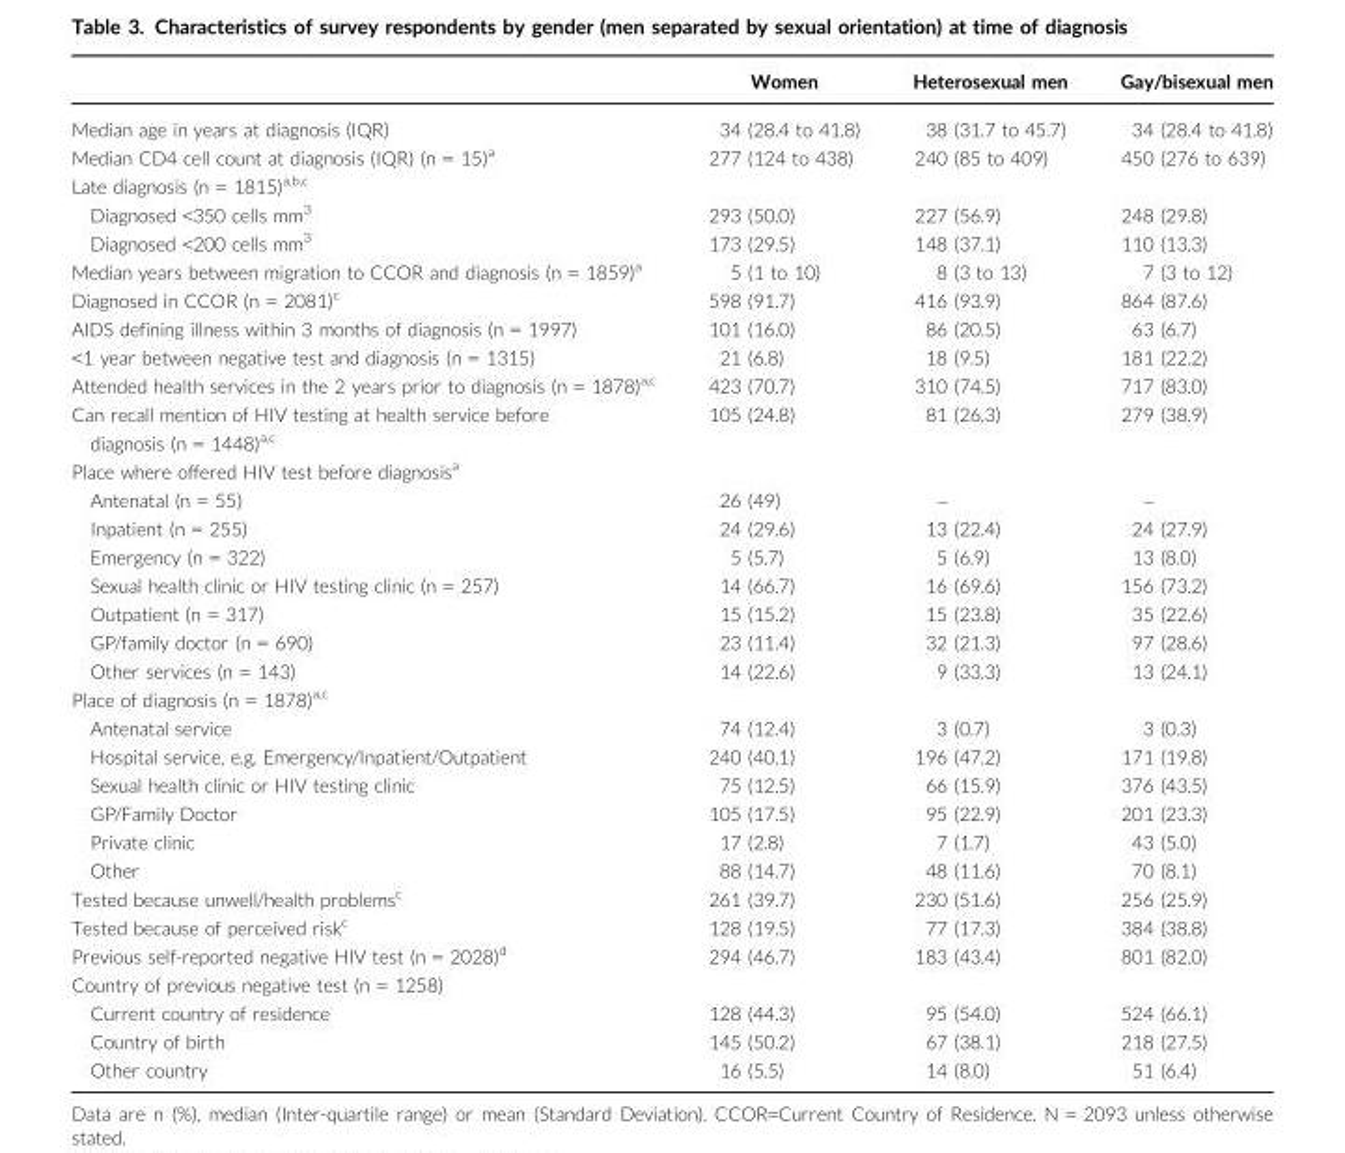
<table><thead><tr><td></td><td>Women</td><td>Heterosexual men</td><td>Gay/bisexual men</td></tr></thead><tbody><tr><td>Median age in years at diagnosis (IQR)</td><td>34 (28.4 to 41.8)</td><td>38 (31.7 to 45.7)</td><td>34 (28.4 to 41.8)</td></tr><tr><td>Median CD4 cell count at diagnosis (IQR) (n = 15)<sup>a</sup></td><td>277 (124 to 438)</td><td>240 (85 to 409)</td><td>450 (276 to 639)</td></tr><tr><td colspan="4">Late diagnosis (n = 1815)<sup>a,</sup>b<sup>,</sup>c</td></tr><tr><td>Diagnosed &lt;350 cells mm<sup>3</sup></td><td>293 (50.0)</td><td>227 (56.9)</td><td>248 (29.8)</td></tr><tr><td>Diagnosed &lt;200 cells mm<sup>3</sup></td><td>173 (29.5)</td><td>148 (37.1)</td><td>110 (13.3)</td></tr><tr><td>Median years between migration to CCOR and diagnosis (n = 1859)<sup>a</sup></td><td>5 (1 to 10)</td><td>8 (3 to 13)</td><td>7 (3 to 12)</td></tr><tr><td>Diagnosed in CCOR (n = 2081)<sup>c</sup></td><td>598 (91.7)</td><td>416 (93.9)</td><td>864 (87.6)</td></tr><tr><td>AIDS defining illness within 3 months of diagnosis (n = 1997)</td><td>101 (16.0)</td><td>86 (20.5)</td><td>63 (6.7)</td></tr><tr><td>&lt;1 year between negative test and diagnosis (n = 1315)</td><td>21 (6.8)</td><td>18 (9.5)</td><td>181 (22.2)</td></tr><tr><td>Attended health services in the 2 years prior to diagnosis (n = 1878)<sup>a,</sup>c</td><td>423 (70.7)</td><td>310 (74.5)</td><td>717 (83.0)</td></tr><tr><td>Can recall mention of HIV testing at health service before diagnosis (n = 1448)<sup>a,</sup>c</td><td>105 (24.8)</td><td>81 (26.3)</td><td>279 (38.9)</td></tr><tr><td colspan="4">Place where offered HIV test before diagnosis<sup>a</sup></td></tr><tr><td>Antenatal (n = 55)</td><td>26 (49)</td><td>–</td><td>–</td></tr><tr><td>Inpatient (n = 255)</td><td>24 (29.6)</td><td>13 (22.4)</td><td>24 (27.9)</td></tr><tr><td>Emergency (n = 322)</td><td>5 (5.7)</td><td>5 (6.9)</td><td>13 (8.0)</td></tr><tr><td>Sexual health clinic or HIV testing clinic (n = 257)</td><td>14 (66.7)</td><td>16 (69.6)</td><td>156 (73.2)</td></tr><tr><td>Outpatient (n = 317)</td><td>15 (15.2)</td><td>15 (23.8)</td><td>35 (22.6)</td></tr><tr><td>GP/family doctor (n = 690)</td><td>23 (11.4)</td><td>32 (21.3)</td><td>97 (28.6)</td></tr><tr><td>Other services (n = 143)</td><td>14 (22.6)</td><td>9 (33.3)</td><td>13 (24.1)</td></tr><tr><td colspan="4">Place of diagnosis (n = 1878)<sup>a,</sup>c</td></tr><tr><td>Antenatal service</td><td>74 (12.4)</td><td>3 (0.7)</td><td>3 (0.3)</td></tr><tr><td>Hospital service, e.g. Emergency/Inpatient/Outpatient</td><td>240 (40.1)</td><td>196 (47.2)</td><td>171 (19.8)</td></tr><tr><td>Sexual health clinic or HIV testing clinic</td><td>75 (12.5)</td><td>66 (15.9)</td><td>376 (43.5)</td></tr><tr><td>GP/Family Doctor</td><td>105 (17.5)</td><td>95 (22.9)</td><td>201 (23.3)</td></tr><tr><td>Private clinic</td><td>17 (2.8)</td><td>7 (1.7)</td><td>43 (5.0)</td></tr><tr><td>Other</td><td>88 (14.7)</td><td>48 (11.6)</td><td>70 (8.1)</td></tr><tr><td>Tested because unwell/health problems<sup>c</sup></td><td>261 (39.7)</td><td>230 (51.6)</td><td>256 (25.9)</td></tr><tr><td>Tested because of perceived risk<sup>c</sup></td><td>128 (19.5)</td><td>77 (17.3)</td><td>384 (38.8)</td></tr><tr><td>Previous self-reported negative HIV test (n = 2028)<sup>d</sup></td><td>294 (46.7)</td><td>183 (43.4)</td><td>801 (82.0)</td></tr><tr><td colspan="4">Country of previous negative test (n = 1258)</td></tr><tr><td>Current country of residence</td><td>128 (44.3)</td><td>95 (54.0)</td><td>524 (66.1)</td></tr><tr><td>Country of birth</td><td>145 (50.2)</td><td>67 (38.1)</td><td>218 (27.5)</td></tr><tr><td>Other country</td><td>16 (5.5)</td><td>14 (8.0)</td><td>51 (6.4)</td></tr></tbody></table>